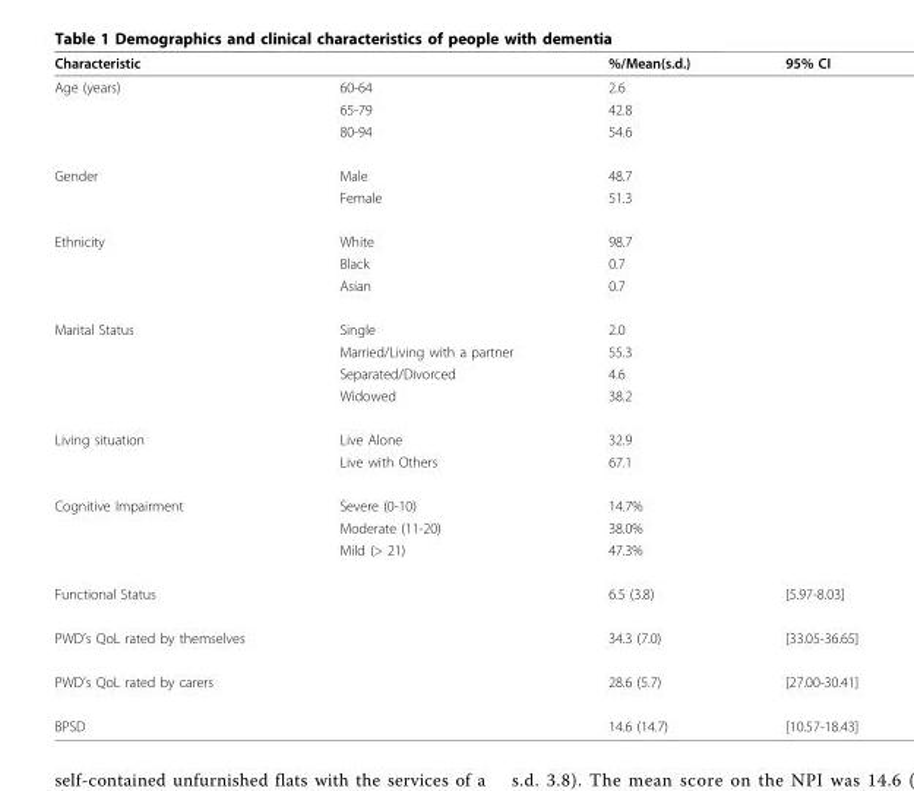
<table><thead><tr><td>Characteristic</td><td></td><td>%/Mean(s.d.)</td><td>95% CI</td></tr></thead><tbody><tr><td rowspan="3">Age (years)</td><td>60-64</td><td>2.6</td><td></td></tr><tr><td>65-79</td><td>42.8</td><td></td></tr><tr><td>80-94</td><td>54.6</td><td></td></tr><tr><td rowspan="2">Gender</td><td>Male</td><td>48.7</td><td></td></tr><tr><td>Female</td><td>51.3</td><td></td></tr><tr><td rowspan="3">Ethnicity</td><td>White</td><td>98.7</td><td></td></tr><tr><td>Black</td><td>0.7</td><td></td></tr><tr><td>Asian</td><td>0.7</td><td></td></tr><tr><td rowspan="4">Marital Status</td><td>Single</td><td>2.0</td><td></td></tr><tr><td>Married/Living with a partner</td><td>55.3</td><td></td></tr><tr><td>Separated/Divorced</td><td>4.6</td><td></td></tr><tr><td>Widowed</td><td>38.2</td><td></td></tr><tr><td rowspan="2">Living situation</td><td>Live Alone</td><td>32.9</td><td></td></tr><tr><td>Live with Others</td><td>67.1</td><td></td></tr><tr><td rowspan="3">Cognitive Impairment</td><td>Severe (0-10)</td><td>14.7%</td><td></td></tr><tr><td>Moderate (11-20)</td><td>38.0%</td><td></td></tr><tr><td>Mild (&gt; 21)</td><td>47.3%</td><td></td></tr><tr><td>Functional Status</td><td></td><td>6.5 (3.8)</td><td>[5.97-8.03]</td></tr><tr><td>PWD’s QoL rated by themselves</td><td></td><td>34.3 (7.0)</td><td>[33.05-36.65]</td></tr><tr><td>PWD’s QoL rated by carers</td><td></td><td>28.6 (5.7)</td><td>[27.00-30.41]</td></tr><tr><td>BPSD</td><td></td><td>14.6 (14.7)</td><td>[10.57-18.43]</td></tr></tbody></table>